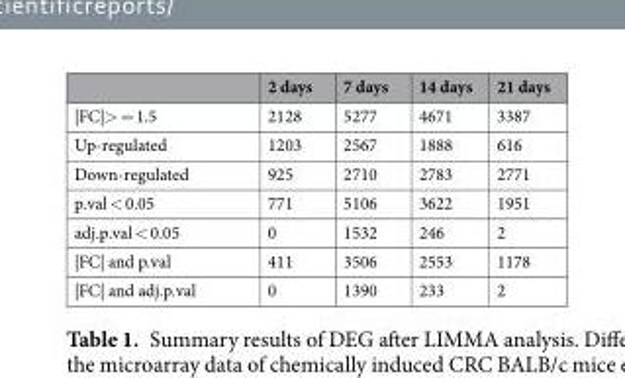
<table><thead><tr><td></td><td>2 days</td><td>7 days</td><td>14 days</td><td>21 days</td></tr></thead><tbody><tr><td>|FC|&gt; = 1.5</td><td>2128</td><td>5277</td><td>4671</td><td>3387</td></tr><tr><td>Up-regulated</td><td>1203</td><td>2567</td><td>1888</td><td>616</td></tr><tr><td>Down-regulated</td><td>925</td><td>2710</td><td>2783</td><td>2771</td></tr><tr><td>p.val &lt; 0.05</td><td>771</td><td>5106</td><td>3622</td><td>1951</td></tr><tr><td>adj.p.val &lt; 0.05</td><td>0</td><td>1532</td><td>246</td><td>2</td></tr><tr><td>|FC| and p.val</td><td>411</td><td>3506</td><td>2553</td><td>1178</td></tr><tr><td>|FC| and adj.p.val</td><td>0</td><td>1390</td><td>233</td><td>2</td></tr></tbody></table>